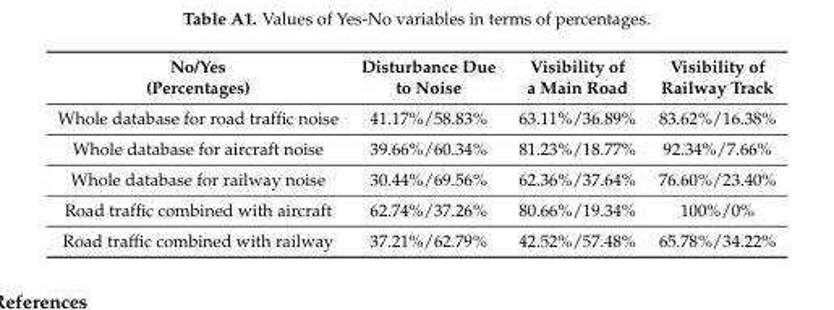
<table><thead><tr><td>No/Yes (Percentages)</td><td>Disturbance Due to Noise</td><td>Visibility of a Main Road</td><td>Visibility of Railway Track</td></tr></thead><tbody><tr><td>Whole database for road traffic noise</td><td>41.17%/58.83%</td><td>63.11%/36.89%</td><td>83.62%/16.38%</td></tr><tr><td>Whole database for aircraft noise</td><td>39.66%/60.34%</td><td>81.23%/18.77%</td><td>92.34%/7.66%</td></tr><tr><td>Whole database for railway noise</td><td>30.44%/69.56%</td><td>62.36%/37.64%</td><td>76.60%/23.40%</td></tr><tr><td>Road traffic combined with aircraft</td><td>62.74%/37.26%</td><td>80.66%/19.34%</td><td>100%/0%</td></tr><tr><td>Road traffic combined with railway</td><td>37.21%/62.79%</td><td>42.52%/57.48%</td><td>65.78%/34.22%</td></tr></tbody></table>